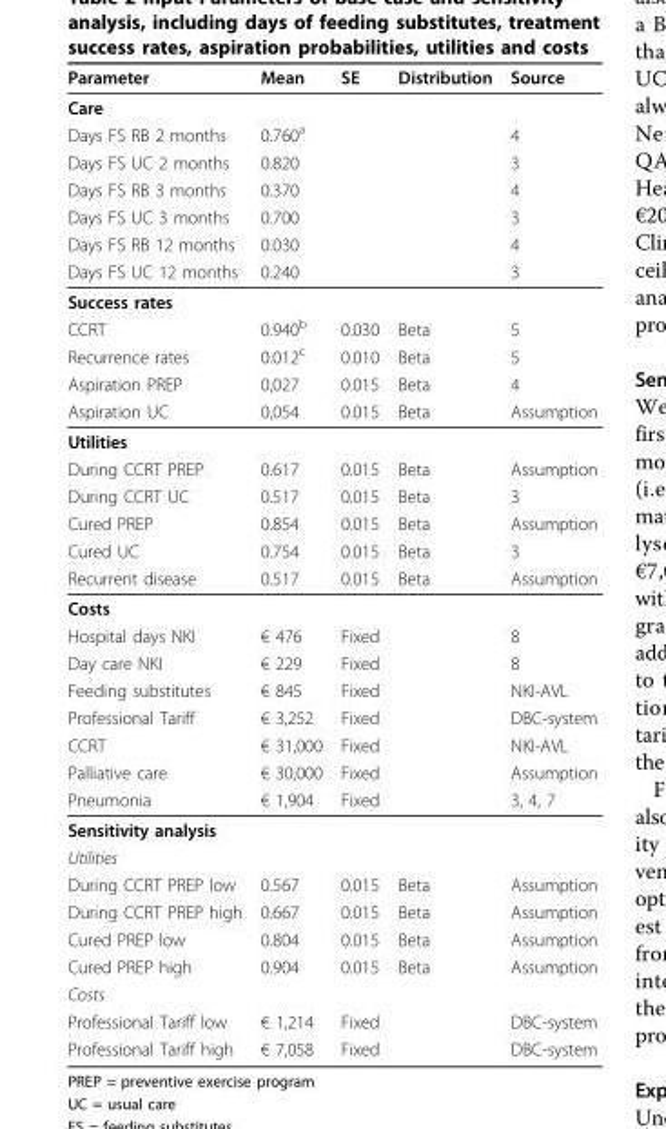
<table><thead><tr><td>Parameter</td><td>Mean</td><td>SE</td><td>Distribution</td><td>Source</td></tr></thead><tbody><tr><td colspan="5">Care</td></tr><tr><td>Days FS RB 2 months</td><td>0.760<sup>a</sup></td><td></td><td></td><td>4</td></tr><tr><td>Days FS UC 2 months</td><td>0.820</td><td></td><td></td><td>3</td></tr><tr><td>Days FS RB 3 months</td><td>0.370</td><td></td><td></td><td>4</td></tr><tr><td>Days FS UC 3 months</td><td>0.700</td><td></td><td></td><td>3</td></tr><tr><td>Days FS RB 12 months</td><td>0.030</td><td></td><td></td><td>4</td></tr><tr><td>Days FS UC 12 months</td><td>0.240</td><td></td><td></td><td>3</td></tr><tr><td colspan="5">Success rates</td></tr><tr><td>CCRT</td><td>0.940<sup>b</sup></td><td>0.030</td><td>Beta</td><td>5</td></tr><tr><td>Recurrence rates</td><td>0.012<sup>c</sup></td><td>0.010</td><td>Beta</td><td>5</td></tr><tr><td>Aspiration PREP</td><td>0,027</td><td>0.015</td><td>Beta</td><td>4</td></tr><tr><td>Aspiration UC</td><td>0,054</td><td>0.015</td><td>Beta</td><td>Assumption</td></tr><tr><td colspan="5">Utilities</td></tr><tr><td>During CCRT PREP</td><td>0.617</td><td>0.015</td><td>Beta</td><td>Assumption</td></tr><tr><td>During CCRT UC</td><td>0.517</td><td>0.015</td><td>Beta</td><td>3</td></tr><tr><td>Cured PREP</td><td>0.854</td><td>0.015</td><td>Beta</td><td>Assumption</td></tr><tr><td>Cured UC</td><td>0.754</td><td>0.015</td><td>Beta</td><td>3</td></tr><tr><td>Recurrent disease</td><td>0.517</td><td>0.015</td><td>Beta</td><td>Assumption</td></tr><tr><td colspan="5">Costs</td></tr><tr><td>Hospital days NKI</td><td>€ 476</td><td>Fixed</td><td></td><td>8</td></tr><tr><td>Day care NKI</td><td>€ 229</td><td>Fixed</td><td></td><td>8</td></tr><tr><td>Feeding substitutes</td><td>€ 845</td><td>Fixed</td><td></td><td>NKI-AVL</td></tr><tr><td>Professional Tariff</td><td>€ 3,252</td><td>Fixed</td><td></td><td>DBC-system</td></tr><tr><td>CCRT</td><td>€ 31,000</td><td>Fixed</td><td></td><td>NKI-AVL</td></tr><tr><td>Palliative care</td><td>€ 30,000</td><td>Fixed</td><td></td><td>Assumption</td></tr><tr><td>Pneumonia</td><td>€ 1,904</td><td>Fixed</td><td></td><td>3, 4, 7</td></tr><tr><td colspan="5">Sensitivity analysis</td></tr><tr><td colspan="5">Utilities</td></tr><tr><td>During CCRT PREP low</td><td>0.567</td><td>0.015</td><td>Beta</td><td>Assumption</td></tr><tr><td>During CCRT PREP high</td><td>0.667</td><td>0.015</td><td>Beta</td><td>Assumption</td></tr><tr><td>Cured PREP low</td><td>0.804</td><td>0.015</td><td>Beta</td><td>Assumption</td></tr><tr><td>Cured PREP high</td><td>0.904</td><td>0.015</td><td>Beta</td><td>Assumption</td></tr><tr><td colspan="5">Costs</td></tr><tr><td>Professional Tariff low</td><td>€ 1,214</td><td>Fixed</td><td></td><td>DBC-system</td></tr><tr><td>Professional Tariff high</td><td>€ 7,058</td><td>Fixed</td><td></td><td>DBC-system</td></tr></tbody></table>